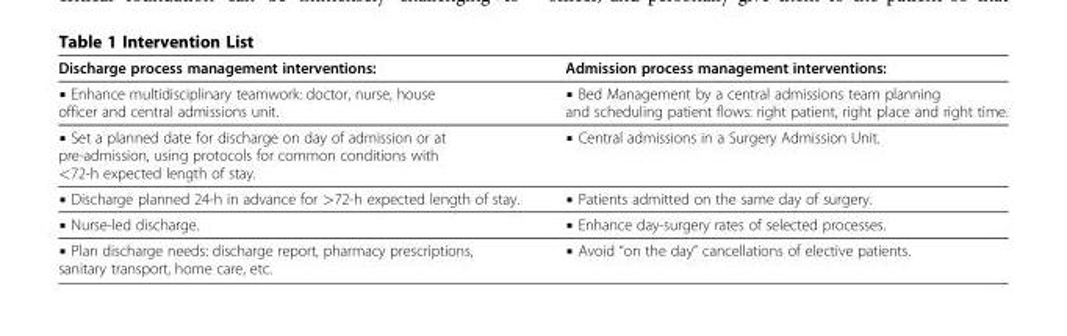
<table><thead><tr><td>Discharge process management interventions:</td><td>Admission process management interventions:</td></tr></thead><tbody><tr><td>▪ Enhance multidisciplinary teamwork: doctor, nurse, house officer and central admissions unit.</td><td>▪ Bed Management by a central admissions team planning and scheduling patient flows: right patient, right place and right time.</td></tr><tr><td>▪ Set a planned date for discharge on day of admission or at pre-admission, using protocols for common conditions with &lt;72-h expected length of stay.</td><td>▪ Central admissions in a Surgery Admission Unit.</td></tr><tr><td>▪ Discharge planned 24-h in advance for &gt;72-h expected length of stay.</td><td>▪ Patients admitted on the same day of surgery.</td></tr><tr><td>▪ Nurse-led discharge.</td><td>▪ Enhance day-surgery rates of selected processes.</td></tr><tr><td>▪ Plan discharge needs: discharge report, pharmacy prescriptions, sanitary transport, home care, etc.</td><td>▪ Avoid “on the day” cancellations of elective patients.</td></tr></tbody></table>